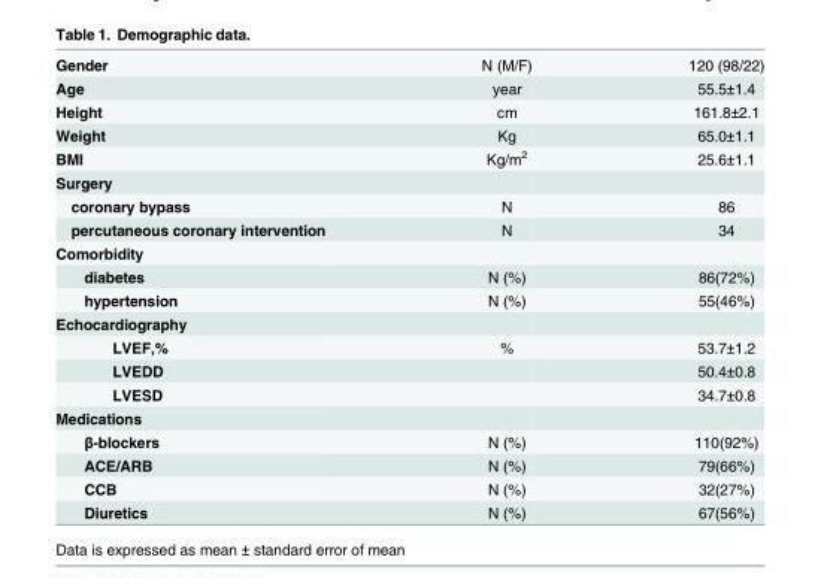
<table><tbody><tr><td>Gender</td><td>N (M/F)</td><td>120 (98/22)</td></tr><tr><td>Age</td><td>year</td><td>55.5±1.4</td></tr><tr><td>Height</td><td>cm</td><td>161.8±2.1</td></tr><tr><td>Weight</td><td>Kg</td><td>65.0±1.1</td></tr><tr><td>BMI</td><td>Kg/m<sup>2</sup></td><td>25.6±1.1</td></tr><tr><td colspan="3">Surgery</td></tr><tr><td>coronary bypass</td><td>N</td><td>86</td></tr><tr><td>percutaneous coronary intervention</td><td>N</td><td>34</td></tr><tr><td colspan="3">Comorbidity</td></tr><tr><td>diabetes</td><td>N (%)</td><td>86(72%)</td></tr><tr><td>hypertension</td><td>N (%)</td><td>55(46%)</td></tr><tr><td colspan="3">Echocardiography</td></tr><tr><td>LVEF,%</td><td>%</td><td>53.7±1.2</td></tr><tr><td>LVEDD</td><td></td><td>50.4±0.8</td></tr><tr><td>LVESD</td><td></td><td>34.7±0.8</td></tr><tr><td colspan="3">Medications</td></tr><tr><td>β-blockers</td><td>N (%)</td><td>110(92%)</td></tr><tr><td>ACE/ARB</td><td>N (%)</td><td>79(66%)</td></tr><tr><td>CCB</td><td>N (%)</td><td>32(27%)</td></tr><tr><td>Diuretics</td><td>N (%)</td><td>67(56%)</td></tr></tbody></table>